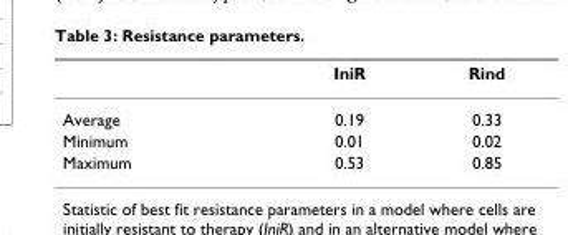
<table><thead><tr><td></td><td>IniR</td><td>Rind</td></tr></thead><tbody><tr><td>Average</td><td>0.19</td><td>0.33</td></tr><tr><td>Minimum</td><td>0.01</td><td>0.02</td></tr><tr><td>Maximum</td><td>0.53</td><td>0.85</td></tr></tbody></table>